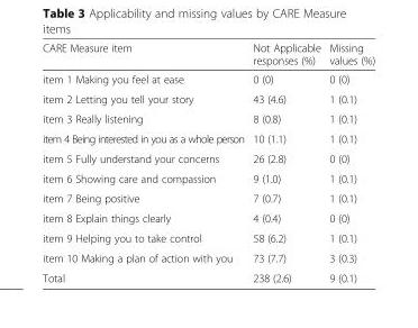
<table><thead><tr><td>CARE Measure item</td><td>Not Applicable responses (%)</td><td>Missing values (%)</td></tr></thead><tbody><tr><td>item 1 Making you feel at ease</td><td>0 (0)</td><td>0 (0)</td></tr><tr><td>item 2 Letting you tell your story</td><td>43 (4.6)</td><td>1 (0.1)</td></tr><tr><td>item 3 Really listening</td><td>8 (0.8)</td><td>1 (0.1)</td></tr><tr><td>item 4 Being interested in you as a whole person</td><td>10 (1.1)</td><td>1 (0.1)</td></tr><tr><td>item 5 Fully understand your concerns</td><td>26 (2.8)</td><td>0 (0)</td></tr><tr><td>item 6 Showing care and compassion</td><td>9 (1.0)</td><td>1 (0.1)</td></tr><tr><td>item 7 Being positive</td><td>7 (0.7)</td><td>1 (0.1)</td></tr><tr><td>item 8 Explain things clearly</td><td>4 (0.4)</td><td>0 (0)</td></tr><tr><td>item 9 Helping you to take control</td><td>58 (6.2)</td><td>1 (0.1)</td></tr><tr><td>item 10 Making a plan of action with you</td><td>73 (7.7)</td><td>3 (0.3)</td></tr><tr><td>Total</td><td>238 (2.6)</td><td>9 (0.1)</td></tr></tbody></table>